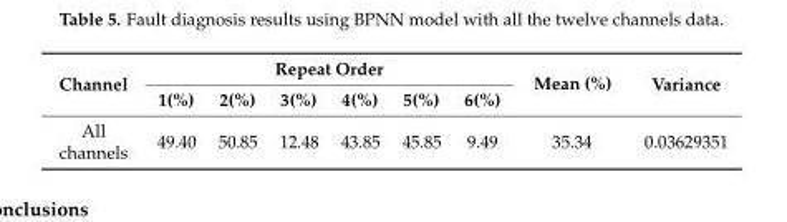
<table><thead><tr><td rowspan="2">Channel</td><td colspan="6">Repeat Order</td><td rowspan="2">Mean (%)</td><td rowspan="2">Variance</td></tr><tr><td>1(%)</td><td>2(%)</td><td>3(%)</td><td>4(%)</td><td>5(%)</td><td>6(%)</td></tr></thead><tbody><tr><td>All channels</td><td>49.40</td><td>50.85</td><td>12.48</td><td>43.85</td><td>45.85</td><td>9.49</td><td>35.34</td><td>0.03629351</td></tr></tbody></table>